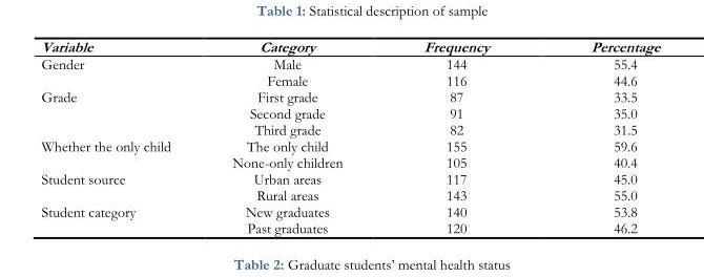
<table><thead><tr><td>Variable</td><td>Category</td><td>Frequency</td><td>Percentage</td></tr></thead><tbody><tr><td rowspan="2">Gender</td><td>Male</td><td>144</td><td>55.4</td></tr><tr><td>Female</td><td>116</td><td>44.6</td></tr><tr><td rowspan="3">Grade</td><td>First grade</td><td>87</td><td>33.5</td></tr><tr><td>Second grade</td><td>91</td><td>35.0</td></tr><tr><td>Third grade</td><td>82</td><td>31.5</td></tr><tr><td rowspan="2">Whether the only child</td><td>The only child</td><td>155</td><td>59.6</td></tr><tr><td>None-only children</td><td>105</td><td>40.4</td></tr><tr><td rowspan="2">Student source</td><td>Urban areas</td><td>117</td><td>45.0</td></tr><tr><td>Rural areas</td><td>143</td><td>55.0</td></tr><tr><td rowspan="2">Student category</td><td>New graduates</td><td>140</td><td>53.8</td></tr><tr><td>Past graduates</td><td>120</td><td>46.2</td></tr></tbody></table>